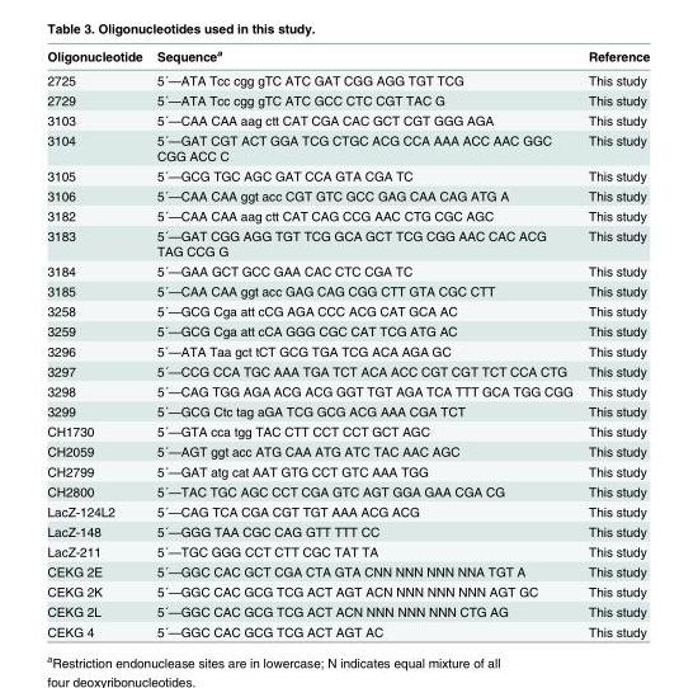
<table><thead><tr><td>Oligonucleotide</td><td>Sequence<sup>a</sup></td><td>Reference</td></tr></thead><tbody><tr><td>2725</td><td>5´—ATA Tcc cgg gTC ATC GAT CGG AGG TGT TCG</td><td>This study</td></tr><tr><td>2729</td><td>5´—ATA Tcc cgg gTC ATC GCC CTC CGT TAC G</td><td>This study</td></tr><tr><td>3103</td><td>5´—CAA CAA aag ctt CAT CGA CAC GCT CGT GGG AGA</td><td>This study</td></tr><tr><td>3104</td><td>5´—GAT CGT ACT GGA TCG CTGC ACG CCA AAA ACC AAC GGC CGG ACC C</td><td>This study</td></tr><tr><td>3105</td><td>5´—GCG TGC AGC GAT CCA GTA CGA TC</td><td>This study</td></tr><tr><td>3106</td><td>5´—CAA CAA ggt acc CGT GTC GCC GAG CAA CAG ATG A</td><td>This study</td></tr><tr><td>3182</td><td>5´—CAA CAA aag ctt CAT CAG CCG AAC CTG CGC AGC</td><td>This study</td></tr><tr><td>3183</td><td>5´—GAT CGG AGG TGT TCG GCA GCT TCG CGG AAC CAC ACG TAG CCG G</td><td>This study</td></tr><tr><td>3184</td><td>5´—GAA GCT GCC GAA CAC CTC CGA TC</td><td>This study</td></tr><tr><td>3185</td><td>5´—CAA CAA ggt acc GAG CAG CGG CTT GTA CGC CTT</td><td>This study</td></tr><tr><td>3258</td><td>5´—GCG Cga att cCG AGA CCC ACG CAT GCA AC</td><td>This study</td></tr><tr><td>3259</td><td>5´—GCG Cga att cCA GGG CGC CAT TCG ATG AC</td><td>This study</td></tr><tr><td>3296</td><td>5´—ATA Taa gct tCT GCG TGA TCG ACA AGA GC</td><td>This study</td></tr><tr><td>3297</td><td>5´—CCG CCA TGC AAA TGA TCT ACA ACC CGT CGT TCT CCA CTG</td><td>This study</td></tr><tr><td>3298</td><td>5´—CAG TGG AGA ACG ACG GGT TGT AGA TCA TTT GCA TGG CGG</td><td>This study</td></tr><tr><td>3299</td><td>5´—GCG Ctc tag aGA TCG GCG ACG AAA CGA TCT</td><td>This study</td></tr><tr><td>CH1730</td><td>5´—GTA cca tgg TAC CTT CCT CCT GCT AGC</td><td>This study</td></tr><tr><td>CH2059</td><td>5´—AGT ggt acc ATG CAA ATG ATC TAC AAC AGC</td><td>This study</td></tr><tr><td>CH2799</td><td>5´—GAT atg cat AAT GTG CCT GTC AAA TGG</td><td>This study</td></tr><tr><td>CH2800</td><td>5´—TAC TGC AGC CCT CGA GTC AGT GGA GAA CGA CG</td><td>This study</td></tr><tr><td>LacZ-124L2</td><td>5´—CAG TCA CGA CGT TGT AAA ACG ACG</td><td>This study</td></tr><tr><td>LacZ-148</td><td>5´—GGG TAA CGC CAG GTT TTT CC</td><td>This study</td></tr><tr><td>LacZ-211</td><td>5´—TGC GGG CCT CTT CGC TAT TA</td><td>This study</td></tr><tr><td>CEKG 2E</td><td>5´—GGC CAC GCT CGA CTA GTA CNN NNN NNN NNA TGT A</td><td>This study</td></tr><tr><td>CEKG 2K</td><td>5´—GGC CAC GCG TCG ACT AGT ACN NNN NNN NNN AGT GC</td><td>This study</td></tr><tr><td>CEKG 2L</td><td>5´—GGC CAC GCG TCG ACT ACN NNN NNN NNN CTG AG</td><td>This study</td></tr><tr><td>CEKG 4</td><td>5´—GGC CAC GCG TCG ACT AGT AC</td><td>This study</td></tr></tbody></table>